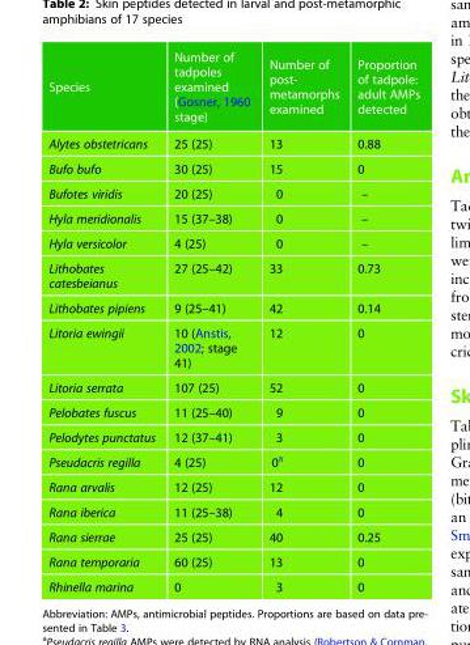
<table><thead><tr><td>Species</td><td>Number of tadpoles examined (Gosner, 1960 stage)</td><td>Number of post- metamorphs examined</td><td>Proportion of tadpole: adult AMPs detected</td></tr></thead><tbody><tr><td>Alytes obstetricans</td><td>25 (25)</td><td>13</td><td>0.88</td></tr><tr><td>Bufo bufo</td><td>30 (25)</td><td>15</td><td>0</td></tr><tr><td>Bufotes viridis</td><td>20 (25)</td><td>0</td><td>–</td></tr><tr><td>Hyla meridionalis</td><td>15 (37–38)</td><td>0</td><td>–</td></tr><tr><td>Hyla versicolor</td><td>4 (25)</td><td>0</td><td>–</td></tr><tr><td>Lithobates catesbeianus</td><td>27 (25–42)</td><td>33</td><td>0.73</td></tr><tr><td>Lithobates pipiens</td><td>9 (25–41)</td><td>42</td><td>0.14</td></tr><tr><td>Litoria ewingii</td><td>10 (Anstis, 2002; stage 41)</td><td>12</td><td>0</td></tr><tr><td>Litoria serrata</td><td>107 (25)</td><td>52</td><td>0</td></tr><tr><td>Pelobates fuscus</td><td>11 (25–40)</td><td>9</td><td>0</td></tr><tr><td>Pelodytes punctatus</td><td>12 (37–41)</td><td>3</td><td>0</td></tr><tr><td>Pseudacris regilla</td><td>4 (25)</td><td>0<sup>a</sup></td><td>0</td></tr><tr><td>Rana arvalis</td><td>12 (25)</td><td>12</td><td>0</td></tr><tr><td>Rana iberica</td><td>11 (25–38)</td><td>4</td><td>0</td></tr><tr><td>Rana sierrae</td><td>25 (25)</td><td>40</td><td>0.25</td></tr><tr><td>Rana temporaria</td><td>60 (25)</td><td>13</td><td>0</td></tr><tr><td>Rhinella marina</td><td>0</td><td>3</td><td>0</td></tr></tbody></table>